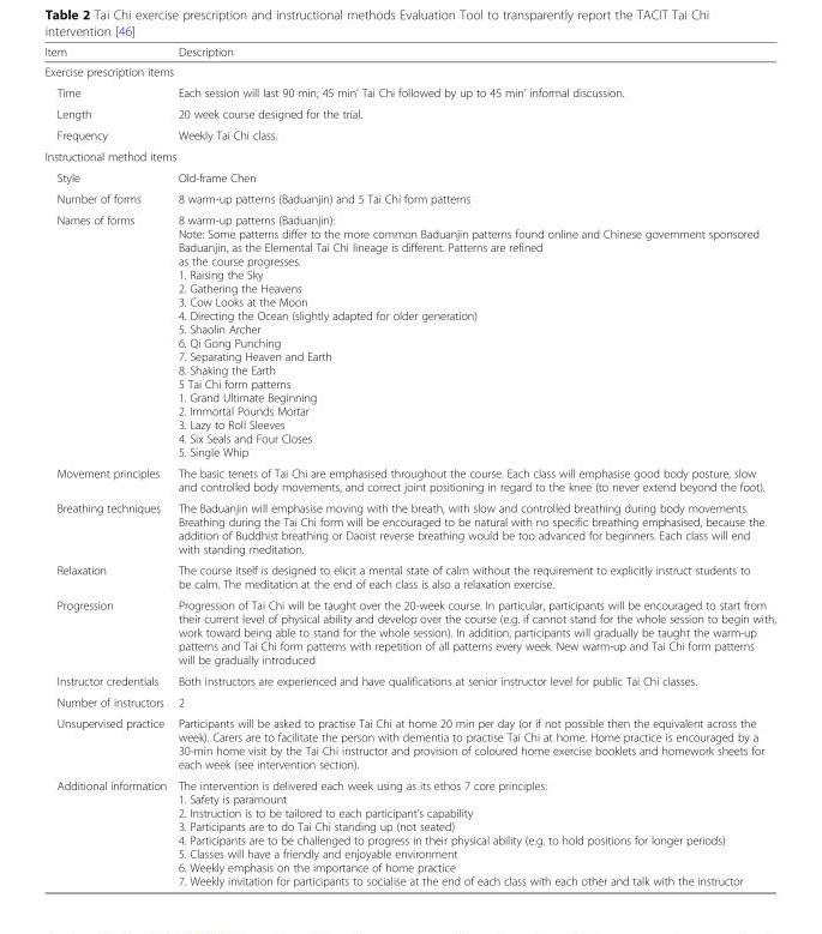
<table><thead><tr><td>Item</td><td>Description</td></tr></thead><tbody><tr><td colspan="2">Exercise prescription items</td></tr><tr><td>Time</td><td>Each session will last 90 min; 45 min’ Tai Chi followed by up to 45 min’ informal discussion.</td></tr><tr><td>Length</td><td>20 week course designed for the trial.</td></tr><tr><td>Frequency</td><td>Weekly Tai Chi class.</td></tr><tr><td colspan="2">Instructional method items</td></tr><tr><td>Style</td><td>Old-frame Chen</td></tr><tr><td>Number of forms</td><td>8 warm-up patterns (Baduanjin) and 5 Tai Chi form patterns</td></tr><tr><td>Names of forms</td><td>8 warm-up patterns (Baduanjin): Note: Some patterns differ to the more common Baduanjin patterns found online and Chinese government sponsored Baduanjin, as the Elemental Tai Chi lineage is different. Patterns are refined as the course progresses. 1. Raising the Sky 2. Gathering the Heavens 3. Cow Looks at the Moon 4. Directing the Ocean (slightly adapted for older generation) 5. Shaolin Archer 6. Qi Gong Punching 7. Separating Heaven and Earth 8. Shaking the Earth 5 Tai Chi form patterns 1. Grand Ultimate Beginning 2. Immortal Pounds Mortar 3. Lazy to Roll Sleeves 4. Six Seals and Four Closes 5. Single Whip</td></tr><tr><td>Movement principles</td><td>The basic tenets of Tai Chi are emphasised throughout the course. Each class will emphasise good body posture, slow and controlled body movements, and correct joint positioning in regard to the knee (to never extend beyond the foot).</td></tr><tr><td>Breathing techniques</td><td>The Baduanjin will emphasise moving with the breath, with slow and controlled breathing during body movements. Breathing during the Tai Chi form will be encouraged to be natural with no specific breathing emphasised, because the addition of Buddhist breathing or Daoist reverse breathing would be too advanced for beginners. Each class will end with standing meditation.</td></tr><tr><td>Relaxation</td><td>The course itself is designed to elicit a mental state of calm without the requirement to explicitly instruct students to be calm. The meditation at the end of each class is also a relaxation exercise.</td></tr><tr><td>Progression</td><td>Progression of Tai Chi will be taught over the 20-week course. In particular, participants will be encouraged to start from their current level of physical ability and develop over the course (e.g. if cannot stand for the whole session to begin with, work toward being able to stand for the whole session). In addition, participants will gradually be taught the warm-up patterns and Tai Chi form patterns with repetition of all patterns every week. New warm-up and Tai Chi form patterns will be gradually introduced</td></tr><tr><td>Instructor credentials</td><td>Both instructors are experienced and have qualifications at senior instructor level for public Tai Chi classes.</td></tr><tr><td>Number of instructors</td><td>2</td></tr><tr><td>Unsupervised practice</td><td>Participants will be asked to practise Tai Chi at home 20 min per day (or if not possible then the equivalent across the week). Carers are to facilitate the person with dementia to practise Tai Chi at home. Home practice is encouraged by a 30-min home visit by the Tai Chi instructor and provision of coloured home exercise booklets and homework sheets for each week (see intervention section).</td></tr><tr><td>Additional information</td><td>The intervention is delivered each week using as its ethos 7 core principles: 1. Safety is paramount 2. Instruction is to be tailored to each participant’s capability 3. Participants are to do Tai Chi standing up (not seated) 4. Participants are to be challenged to progress in their physical ability (e.g. to hold positions for longer periods) 5. Classes will have a friendly and enjoyable environment 6. Weekly emphasis on the importance of home practice 7. Weekly invitation for participants to socialise at the end of each class with each other and talk with the instructor</td></tr></tbody></table>